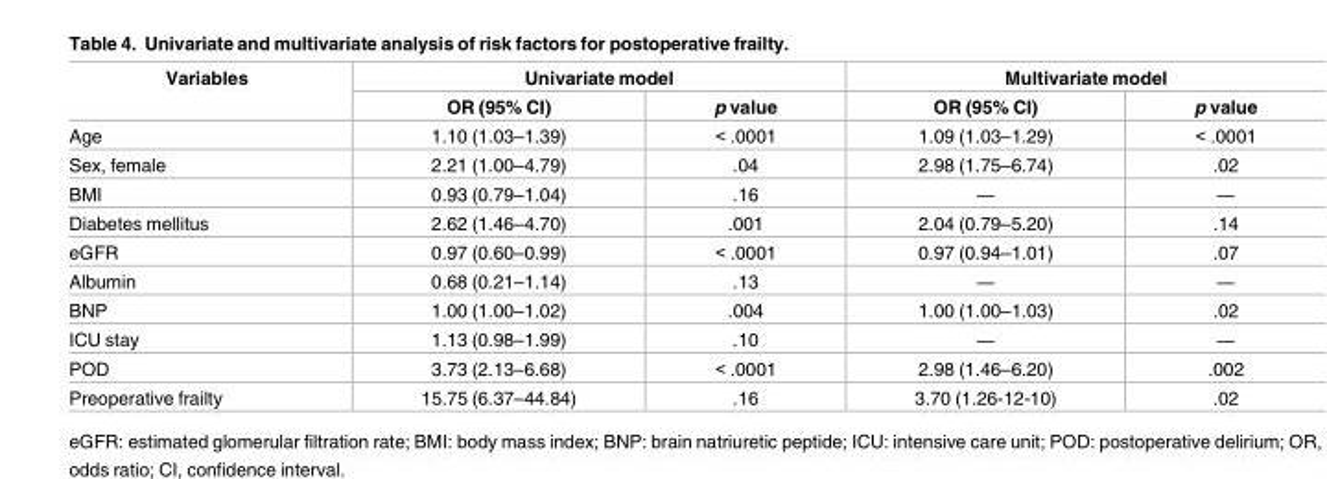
<table><thead><tr><td rowspan="2">Variables</td><td colspan="2">Univariate model</td><td colspan="2">Multivariate model</td></tr><tr><td>OR (95% CI)</td><td>p value</td><td>OR (95% CI)</td><td>p value</td></tr></thead><tbody><tr><td>Age</td><td>1.10 (1.03–1.39)</td><td>&lt; .0001</td><td>1.09 (1.03–1.29)</td><td>&lt; .0001</td></tr><tr><td>Sex, female</td><td>2.21 (1.00–4.79)</td><td>.04</td><td>2.98 (1.75–6.74)</td><td>.02</td></tr><tr><td>BMI</td><td>0.93 (0.79–1.04)</td><td>.16</td><td>―</td><td>―</td></tr><tr><td>Diabetes mellitus</td><td>2.62 (1.46–4.70)</td><td>.001</td><td>2.04 (0.79–5.20)</td><td>.14</td></tr><tr><td>eGFR</td><td>0.97 (0.60–0.99)</td><td>&lt; .0001</td><td>0.97 (0.94–1.01)</td><td>.07</td></tr><tr><td>Albumin</td><td>0.68 (0.21–1.14)</td><td>.13</td><td>―</td><td>―</td></tr><tr><td>BNP</td><td>1.00 (1.00–1.02)</td><td>.004</td><td>1.00 (1.00–1.03)</td><td>.02</td></tr><tr><td>ICU stay</td><td>1.13 (0.98–1.99)</td><td>.10</td><td>―</td><td>―</td></tr><tr><td>POD</td><td>3.73 (2.13–6.68)</td><td>&lt; .0001</td><td>2.98 (1.46–6.20)</td><td>.002</td></tr><tr><td>Preoperative frailty</td><td>15.75 (6.37–44.84)</td><td>.16</td><td>3.70 (1.26-12-10)</td><td>.02</td></tr></tbody></table>